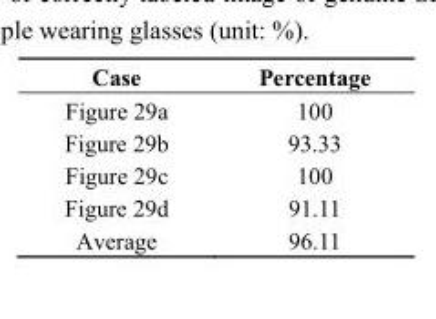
<table><thead><tr><td>Case</td><td>Percentage</td></tr></thead><tbody><tr><td>Figure 29a</td><td>100</td></tr><tr><td>Figure 29b</td><td>93.33</td></tr><tr><td>Figure 29c</td><td>100</td></tr><tr><td>Figure 29d</td><td>91.11</td></tr><tr><td>Average</td><td>96.11</td></tr></tbody></table>